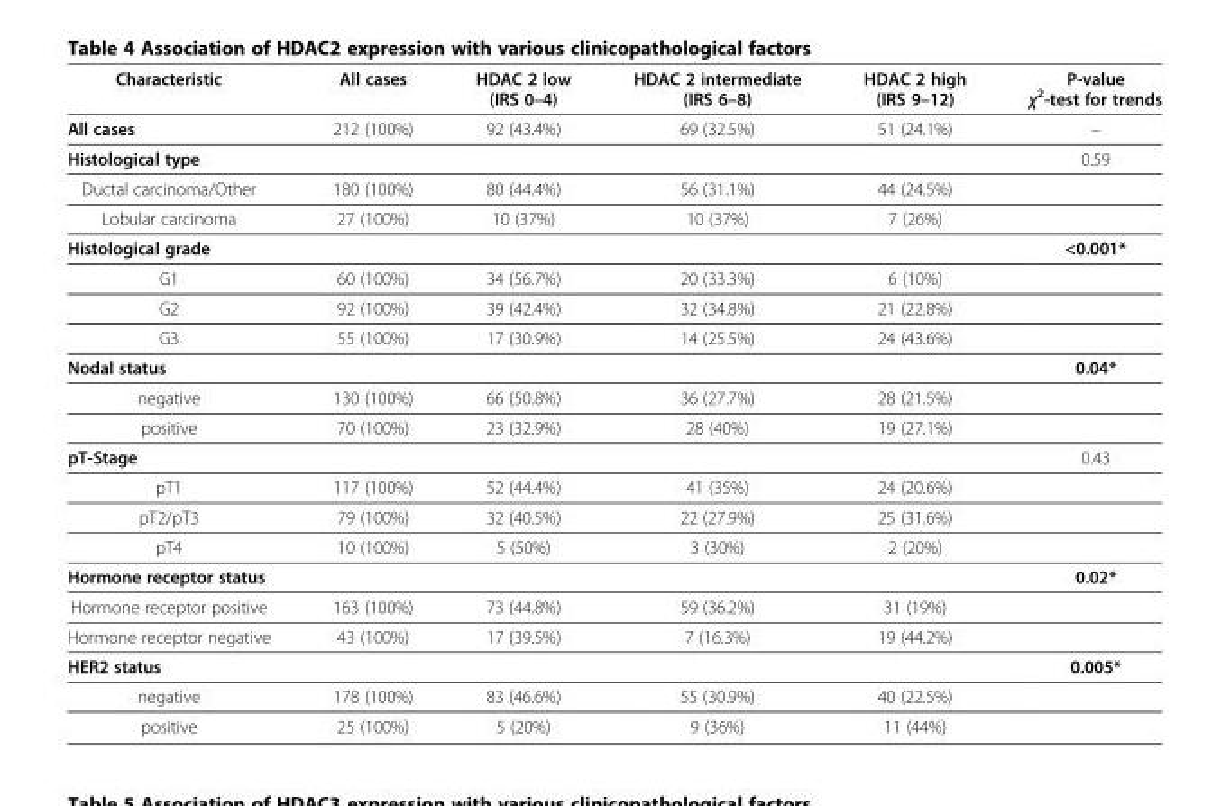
<table><thead><tr><td>Characteristic</td><td>All cases</td><td>HDAC 2 low (IRS 0–4)</td><td>HDAC 2 intermediate (IRS 6–8)</td><td>HDAC 2 high (IRS 9–12)</td><td>P-value χ<sup>2</sup>-test for trends</td></tr></thead><tbody><tr><td>All cases</td><td>212 (100%)</td><td>92 (43.4%)</td><td>69 (32.5%)</td><td>51 (24.1%)</td><td>–</td></tr><tr><td>Histological type</td><td></td><td></td><td></td><td></td><td>0.59</td></tr><tr><td>Ductal carcinoma/Other</td><td>180 (100%)</td><td>80 (44.4%)</td><td>56 (31.1%)</td><td>44 (24.5%)</td><td></td></tr><tr><td>Lobular carcinoma</td><td>27 (100%)</td><td>10 (37%)</td><td>10 (37%)</td><td>7 (26%)</td><td></td></tr><tr><td>Histological grade</td><td></td><td></td><td></td><td></td><td>&lt;0.001*</td></tr><tr><td>G1</td><td>60 (100%)</td><td>34 (56.7%)</td><td>20 (33.3%)</td><td>6 (10%)</td><td></td></tr><tr><td>G2</td><td>92 (100%)</td><td>39 (42.4%)</td><td>32 (34.8%)</td><td>21 (22.8%)</td><td></td></tr><tr><td>G3</td><td>55 (100%)</td><td>17 (30.9%)</td><td>14 (25.5%)</td><td>24 (43.6%)</td><td></td></tr><tr><td>Nodal status</td><td></td><td></td><td></td><td></td><td>0.04*</td></tr><tr><td>negative</td><td>130 (100%)</td><td>66 (50.8%)</td><td>36 (27.7%)</td><td>28 (21.5%)</td><td></td></tr><tr><td>positive</td><td>70 (100%)</td><td>23 (32.9%)</td><td>28 (40%)</td><td>19 (27.1%)</td><td></td></tr><tr><td>pT-Stage</td><td></td><td></td><td></td><td></td><td>0.43</td></tr><tr><td>pT1</td><td>117 (100%)</td><td>52 (44.4%)</td><td>41 (35%)</td><td>24 (20.6%)</td><td></td></tr><tr><td>pT2/pT3</td><td>79 (100%)</td><td>32 (40.5%)</td><td>22 (27.9%)</td><td>25 (31.6%)</td><td></td></tr><tr><td>pT4</td><td>10 (100%)</td><td>5 (50%)</td><td>3 (30%)</td><td>2 (20%)</td><td></td></tr><tr><td>Hormone receptor status</td><td></td><td></td><td></td><td></td><td>0.02*</td></tr><tr><td>Hormone receptor positive</td><td>163 (100%)</td><td>73 (44.8%)</td><td>59 (36.2%)</td><td>31 (19%)</td><td></td></tr><tr><td>Hormone receptor negative</td><td>43 (100%)</td><td>17 (39.5%)</td><td>7 (16.3%)</td><td>19 (44.2%)</td><td></td></tr><tr><td>HER2 status</td><td></td><td></td><td></td><td></td><td>0.005*</td></tr><tr><td>negative</td><td>178 (100%)</td><td>83 (46.6%)</td><td>55 (30.9%)</td><td>40 (22.5%)</td><td></td></tr><tr><td>positive</td><td>25 (100%)</td><td>5 (20%)</td><td>9 (36%)</td><td>11 (44%)</td><td></td></tr></tbody></table>